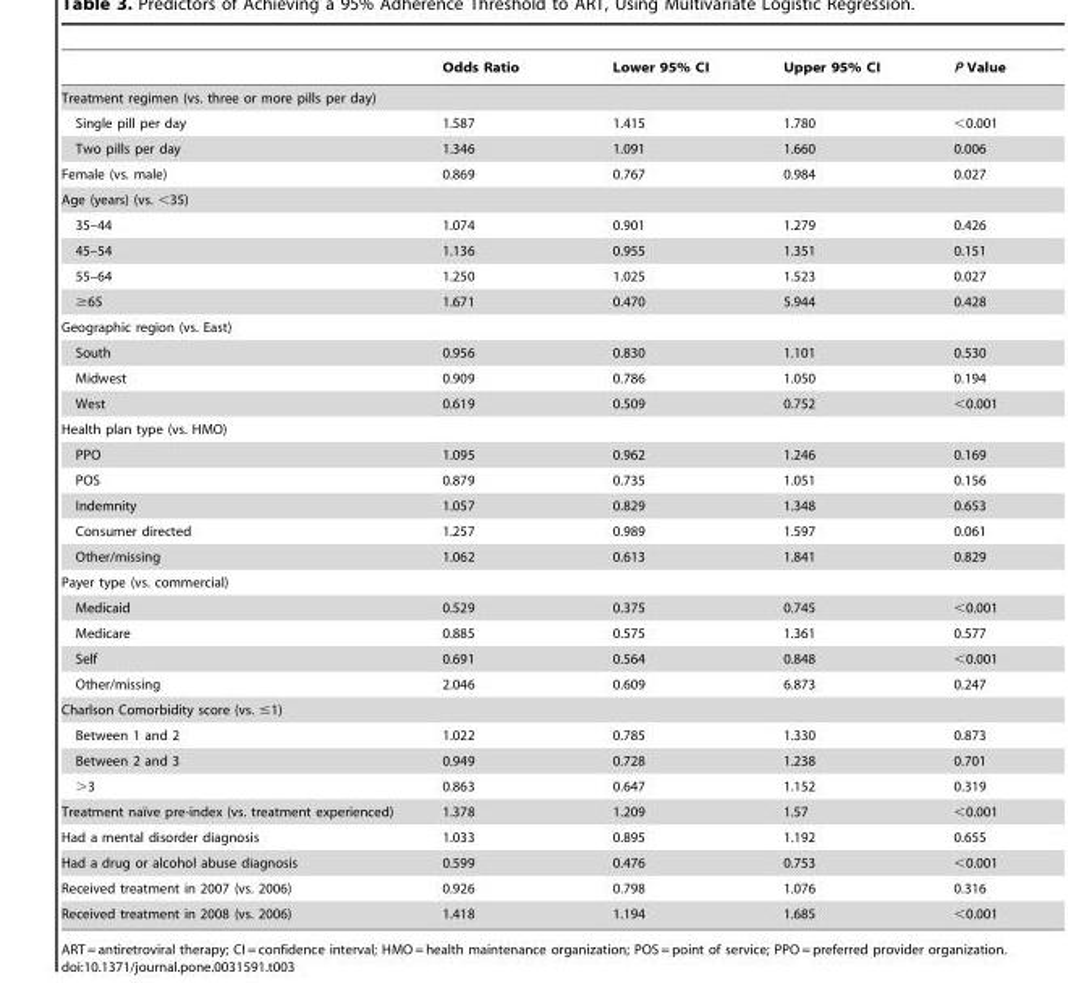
<table><thead><tr><td></td><td>Odds Ratio</td><td>Lower 95% CI</td><td>Upper 95% CI</td><td>P Value</td></tr></thead><tbody><tr><td colspan="5">Treatment regimen (vs. three or more pills per day)</td></tr><tr><td>Single pill per day</td><td>1.587</td><td>1.415</td><td>1.780</td><td>&lt;0.001</td></tr><tr><td>Two pills per day</td><td>1.346</td><td>1.091</td><td>1.660</td><td>0.006</td></tr><tr><td>Female (vs. male)</td><td>0.869</td><td>0.767</td><td>0.984</td><td>0.027</td></tr><tr><td colspan="5">Age (years) (vs. &lt;35)</td></tr><tr><td>35–44</td><td>1.074</td><td>0.901</td><td>1.279</td><td>0.426</td></tr><tr><td>45–54</td><td>1.136</td><td>0.955</td><td>1.351</td><td>0.151</td></tr><tr><td>55–64</td><td>1.250</td><td>1.025</td><td>1.523</td><td>0.027</td></tr><tr><td>≥65</td><td>1.671</td><td>0.470</td><td>5.944</td><td>0.428</td></tr><tr><td colspan="5">Geographic region (vs. East)</td></tr><tr><td>South</td><td>0.956</td><td>0.830</td><td>1.101</td><td>0.530</td></tr><tr><td>Midwest</td><td>0.909</td><td>0.786</td><td>1.050</td><td>0.194</td></tr><tr><td>West</td><td>0.619</td><td>0.509</td><td>0.752</td><td>&lt;0.001</td></tr><tr><td colspan="5">Health plan type (vs. HMO)</td></tr><tr><td>PPO</td><td>1.095</td><td>0.962</td><td>1.246</td><td>0.169</td></tr><tr><td>POS</td><td>0.879</td><td>0.735</td><td>1.051</td><td>0.156</td></tr><tr><td>Indemnity</td><td>1.057</td><td>0.829</td><td>1.348</td><td>0.653</td></tr><tr><td>Consumer directed</td><td>1.257</td><td>0.989</td><td>1.597</td><td>0.061</td></tr><tr><td>Other/missing</td><td>1.062</td><td>0.613</td><td>1.841</td><td>0.829</td></tr><tr><td colspan="5">Payer type (vs. commercial)</td></tr><tr><td>Medicaid</td><td>0.529</td><td>0.375</td><td>0.745</td><td>&lt;0.001</td></tr><tr><td>Medicare</td><td>0.885</td><td>0.575</td><td>1.361</td><td>0.577</td></tr><tr><td>Self</td><td>0.691</td><td>0.564</td><td>0.848</td><td>&lt;0.001</td></tr><tr><td>Other/missing</td><td>2.046</td><td>0.609</td><td>6.873</td><td>0.247</td></tr><tr><td colspan="5">Charlson Comorbidity score (vs. ≤1)</td></tr><tr><td>Between 1 and 2</td><td>1.022</td><td>0.785</td><td>1.330</td><td>0.873</td></tr><tr><td>Between 2 and 3</td><td>0.949</td><td>0.728</td><td>1.238</td><td>0.701</td></tr><tr><td>&gt;3</td><td>0.863</td><td>0.647</td><td>1.152</td><td>0.319</td></tr><tr><td>Treatment naı¨ve pre-index (vs. treatment experienced)</td><td>1.378</td><td>1.209</td><td>1.57</td><td>&lt;0.001</td></tr><tr><td>Had a mental disorder diagnosis</td><td>1.033</td><td>0.895</td><td>1.192</td><td>0.655</td></tr><tr><td>Had a drug or alcohol abuse diagnosis</td><td>0.599</td><td>0.476</td><td>0.753</td><td>&lt;0.001</td></tr><tr><td>Received treatment in 2007 (vs. 2006)</td><td>0.926</td><td>0.798</td><td>1.076</td><td>0.316</td></tr><tr><td>Received treatment in 2008 (vs. 2006)</td><td>1.418</td><td>1.194</td><td>1.685</td><td>&lt;0.001</td></tr></tbody></table>